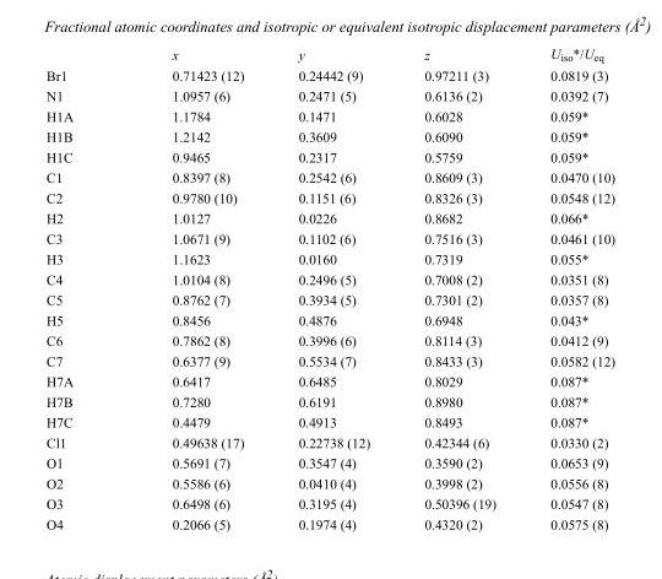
<table><thead><tr><td></td><td>x</td><td>y</td><td>z</td><td>U<sub>iso</sub>*/U<sub>eq</sub></td></tr></thead><tbody><tr><td>Br1</td><td>0.71423 (12)</td><td>0.24442 (9)</td><td>0.97211 (3)</td><td>0.0819 (3)</td></tr><tr><td>N1</td><td>1.0957 (6)</td><td>0.2471 (5)</td><td>0.6136 (2)</td><td>0.0392 (7)</td></tr><tr><td>H1A</td><td>1.1784</td><td>0.1471</td><td>0.6028</td><td>0.059*</td></tr><tr><td>H1B</td><td>1.2142</td><td>0.3609</td><td>0.6090</td><td>0.059*</td></tr><tr><td>H1C</td><td>0.9465</td><td>0.2317</td><td>0.5759</td><td>0.059*</td></tr><tr><td>C1</td><td>0.8397 (8)</td><td>0.2542 (6)</td><td>0.8609 (3)</td><td>0.0470 (10)</td></tr><tr><td>C2</td><td>0.9780 (10)</td><td>0.1151 (6)</td><td>0.8326 (3)</td><td>0.0548 (12)</td></tr><tr><td>H2</td><td>1.0127</td><td>0.0226</td><td>0.8682</td><td>0.066*</td></tr><tr><td>C3</td><td>1.0671 (9)</td><td>0.1102 (6)</td><td>0.7516 (3)</td><td>0.0461 (10)</td></tr><tr><td>H3</td><td>1.1623</td><td>0.0160</td><td>0.7319</td><td>0.055*</td></tr><tr><td>C4</td><td>1.0104 (8)</td><td>0.2496 (5)</td><td>0.7008 (2)</td><td>0.0351 (8)</td></tr><tr><td>C5</td><td>0.8762 (7)</td><td>0.3934 (5)</td><td>0.7301 (2)</td><td>0.0357 (8)</td></tr><tr><td>H5</td><td>0.8456</td><td>0.4876</td><td>0.6948</td><td>0.043*</td></tr><tr><td>C6</td><td>0.7862 (8)</td><td>0.3996 (6)</td><td>0.8114 (3)</td><td>0.0412 (9)</td></tr><tr><td>C7</td><td>0.6377 (9)</td><td>0.5534 (7)</td><td>0.8433 (3)</td><td>0.0582 (12)</td></tr><tr><td>H7A</td><td>0.6417</td><td>0.6485</td><td>0.8029</td><td>0.087*</td></tr><tr><td>H7B</td><td>0.7280</td><td>0.6191</td><td>0.8980</td><td>0.087*</td></tr><tr><td>H7C</td><td>0.4479</td><td>0.4913</td><td>0.8493</td><td>0.087*</td></tr><tr><td>Cl1</td><td>0.49638 (17)</td><td>0.22738 (12)</td><td>0.42344 (6)</td><td>0.0330 (2)</td></tr><tr><td>O1</td><td>0.5691 (7)</td><td>0.3547 (4)</td><td>0.3590 (2)</td><td>0.0653 (9)</td></tr><tr><td>O2</td><td>0.5586 (6)</td><td>0.0410 (4)</td><td>0.3998 (2)</td><td>0.0556 (8)</td></tr><tr><td>O3</td><td>0.6498 (6)</td><td>0.3195 (4)</td><td>0.50396 (19)</td><td>0.0547 (8)</td></tr><tr><td>O4</td><td>0.2066 (5)</td><td>0.1974 (4)</td><td>0.4320 (2)</td><td>0.0575 (8)</td></tr></tbody></table>